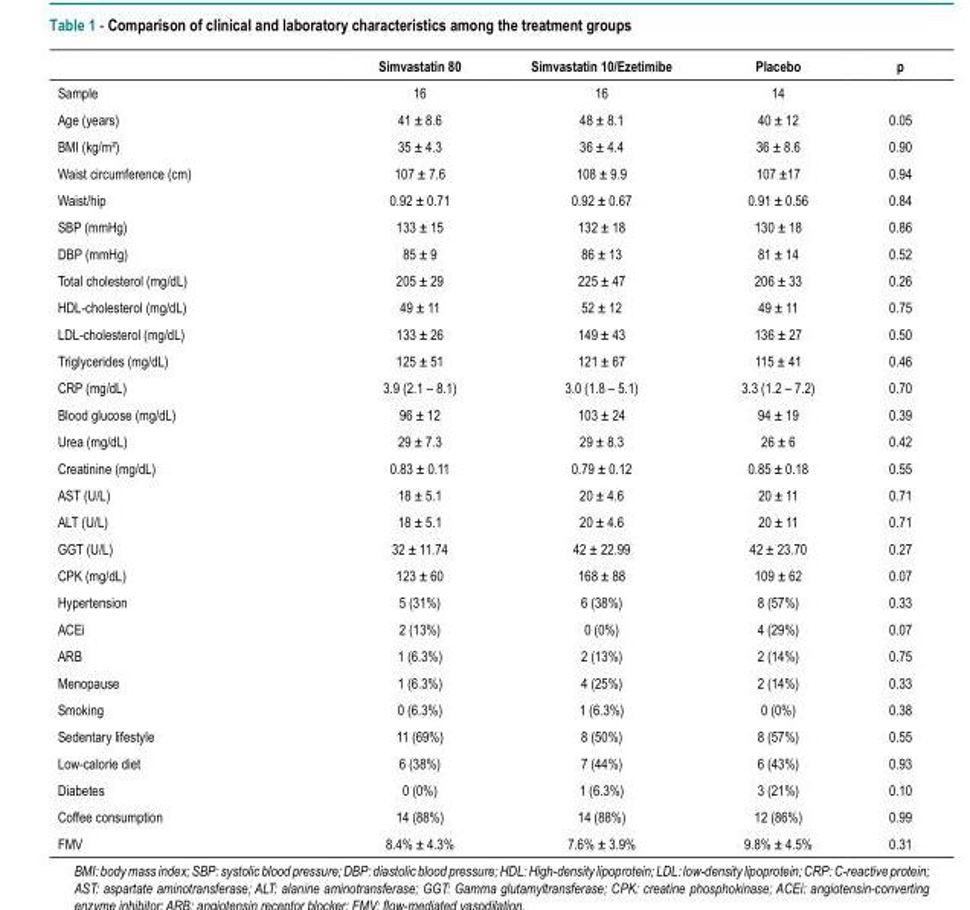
<table><thead><tr><td></td><td>Simvastatin 80</td><td>Simvastatin 10/Ezetimibe</td><td>Placebo</td><td>p</td></tr></thead><tbody><tr><td>Sample</td><td>16</td><td>16</td><td>14</td><td></td></tr><tr><td>Age (years)</td><td>41 ± 8.6</td><td>48 ± 8.1</td><td>40 ± 12</td><td>0.05</td></tr><tr><td>BMI (kg/m²)</td><td>35 ± 4.3</td><td>36 ± 4.4</td><td>36 ± 8.6</td><td>0.90</td></tr><tr><td>Waist circumference (cm)</td><td>107 ± 7.6</td><td>108 ± 9.9</td><td>107 ±17</td><td>0.94</td></tr><tr><td>Waist/hip</td><td>0.92 ± 0.71</td><td>0.92 ± 0.67</td><td>0.91 ± 0.56</td><td>0.84</td></tr><tr><td>SBP (mmHg)</td><td>133 ± 15</td><td>132 ± 18</td><td>130 ± 18</td><td>0.86</td></tr><tr><td>DBP (mmHg)</td><td>85 ± 9</td><td>86 ± 13</td><td>81 ± 14</td><td>0.52</td></tr><tr><td>Total cholesterol (mg/dL)</td><td>205 ± 29</td><td>225 ± 47</td><td>206 ± 33</td><td>0.26</td></tr><tr><td>HDL-cholesterol (mg/dL)</td><td>49 ± 11</td><td>52 ± 12</td><td>49 ± 11</td><td>0.75</td></tr><tr><td>LDL-cholesterol (mg/dL)</td><td>133 ± 26</td><td>149 ± 43</td><td>136 ± 27</td><td>0.50</td></tr><tr><td>Triglycerides (mg/dL)</td><td>125 ± 51</td><td>121 ± 67</td><td>115 ± 41</td><td>0.46</td></tr><tr><td>CRP (mg/dL)</td><td>3.9 (2.1 – 8.1)</td><td>3.0 (1.8 – 5.1)</td><td>3.3 (1.2 – 7.2)</td><td>0.70</td></tr><tr><td>Blood glucose (mg/dL)</td><td>96 ± 12</td><td>103 ± 24</td><td>94 ± 19</td><td>0.39</td></tr><tr><td>Urea (mg/dL)</td><td>29 ± 7.3</td><td>29 ± 8.3</td><td>26 ± 6</td><td>0.42</td></tr><tr><td>Creatinine (mg/dL)</td><td>0.83 ± 0.11</td><td>0.79 ± 0.12</td><td>0.85 ± 0.18</td><td>0.55</td></tr><tr><td>AST (U/L)</td><td>18 ± 5.1</td><td>20 ± 4.6</td><td>20 ± 11</td><td>0.71</td></tr><tr><td>ALT (U/L)</td><td>18 ± 5.1</td><td>20 ± 4.6</td><td>20 ± 11</td><td>0.71</td></tr><tr><td>GGT (U/L)</td><td>32 ± 11.74</td><td>42 ± 22.99</td><td>42 ± 23.70</td><td>0.27</td></tr><tr><td>CPK (mg/dL)</td><td>123 ± 60</td><td>168 ± 88</td><td>109 ± 62</td><td>0.07</td></tr><tr><td>Hypertension</td><td>5 (31%)</td><td>6 (38%)</td><td>8 (57%)</td><td>0.33</td></tr><tr><td>ACEi</td><td>2 (13%)</td><td>0 (0%)</td><td>4 (29%)</td><td>0.07</td></tr><tr><td>ARB</td><td>1 (6.3%)</td><td>2 (13%)</td><td>2 (14%)</td><td>0.75</td></tr><tr><td>Menopause</td><td>1 (6.3%)</td><td>4 (25%)</td><td>2 (14%)</td><td>0.33</td></tr><tr><td>Smoking</td><td>0 (6.3%)</td><td>1 (6.3%)</td><td>0 (0%)</td><td>0.38</td></tr><tr><td>Sedentary lifestyle</td><td>11 (69%)</td><td>8 (50%)</td><td>8 (57%)</td><td>0.55</td></tr><tr><td>Low-calorie diet</td><td>6 (38%)</td><td>7 (44%)</td><td>6 (43%)</td><td>0.93</td></tr><tr><td>Diabetes</td><td>0 (0%)</td><td>1 (6.3%)</td><td>3 (21%)</td><td>0.10</td></tr><tr><td>Coffee consumption</td><td>14 (88%)</td><td>14 (88%)</td><td>12 (86%)</td><td>0.99</td></tr><tr><td>FMV</td><td>8.4% ± 4.3%</td><td>7.6% ± 3.9%</td><td>9.8% ± 4.5%</td><td>0.31</td></tr></tbody></table>